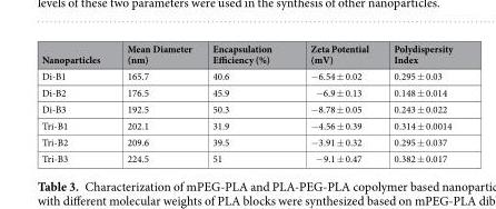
<table><thead><tr><td>Nanoparticles</td><td>Mean Diameter (nm)</td><td>Encapsulation Efficiency (%)</td><td>Zeta Potential (mV)</td><td>Polydispersity Index</td></tr></thead><tbody><tr><td>Di-B1</td><td>165.7</td><td>40.6</td><td>−6.54 ± 0.02</td><td>0.295 ± 0.03</td></tr><tr><td>Di-B2</td><td>176.5</td><td>45.9</td><td>−6.9 ± 0.13</td><td>0.148 ± 0.014</td></tr><tr><td>Di-B3</td><td>192.5</td><td>50.3</td><td>−8.78 ± 0.05</td><td>0.243 ± 0.022</td></tr><tr><td>Tri-B1</td><td>202.1</td><td>31.9</td><td>−4.56 ± 0.39</td><td>0.314 ± 0.0014</td></tr><tr><td>Tri-B2</td><td>209.6</td><td>39.5</td><td>−3.91 ± 0.32</td><td>0.295 ± 0.037</td></tr><tr><td>Tri-B3</td><td>224.5</td><td>51</td><td>−9.1 ± 0.47</td><td>0.382 ± 0.017</td></tr></tbody></table>